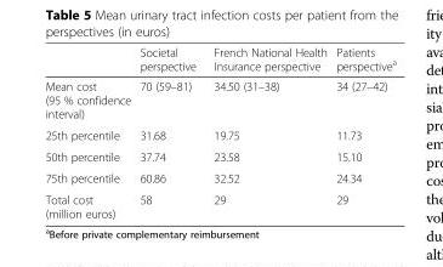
<table><thead><tr><td></td><td>Societal perspective</td><td>French National Health Insurance perspective</td><td>Patients perspective<sup>a</sup></td></tr></thead><tbody><tr><td>Mean cost (95 % confidence interval)</td><td>70 (59–81)</td><td>34.50 (31–38)</td><td>34 (27–42)</td></tr><tr><td>25th percentile</td><td>31.68</td><td>19.75</td><td>11.73</td></tr><tr><td>50th percentile</td><td>37.74</td><td>23.58</td><td>15.10</td></tr><tr><td>75th percentile</td><td>60.86</td><td>32.52</td><td>24.34</td></tr><tr><td>Total cost (million euros)</td><td>58</td><td>29</td><td>29</td></tr></tbody></table>